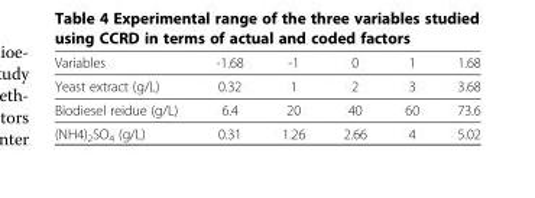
<table><tbody><tr><td>Variables</td><td>-1.68</td><td>-1</td><td>0</td><td>1</td><td>1.68</td></tr><tr><td>Yeast extract (g/L)</td><td>0.32</td><td>1</td><td>2</td><td>3</td><td>3.68</td></tr><tr><td>Biodiesel reidue (g/L)</td><td>6.4</td><td>20</td><td>40</td><td>60</td><td>73.6</td></tr><tr><td>(NH4)<sub>2</sub>SO<sub>4</sub> (g/L)</td><td>0.31</td><td>1.26</td><td>2.66</td><td>4</td><td>5.02</td></tr></tbody></table>